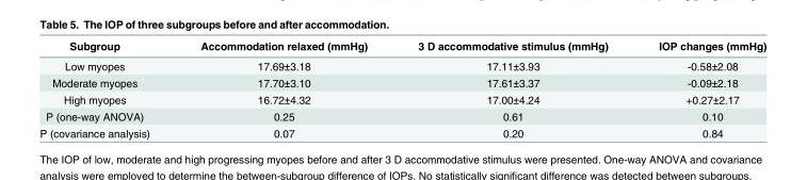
<table><thead><tr><td>Subgroup</td><td>Accommodation relaxed (mmHg)</td><td>3 D accommodative stimulus (mmHg)</td><td>IOP changes (mmHg)</td></tr></thead><tbody><tr><td>Low myopes</td><td>17.69±3.18</td><td>17.11±3.93</td><td>-0.58±2.08</td></tr><tr><td>Moderate myopes</td><td>17.70±3.10</td><td>17.61±3.37</td><td>-0.09±2.18</td></tr><tr><td>High myopes</td><td>16.72±4.32</td><td>17.00±4.24</td><td>+0.27±2.17</td></tr><tr><td>P (one-way ANOVA)</td><td>0.25</td><td>0.61</td><td>0.10</td></tr><tr><td>P (covariance analysis)</td><td>0.07</td><td>0.20</td><td>0.84</td></tr></tbody></table>